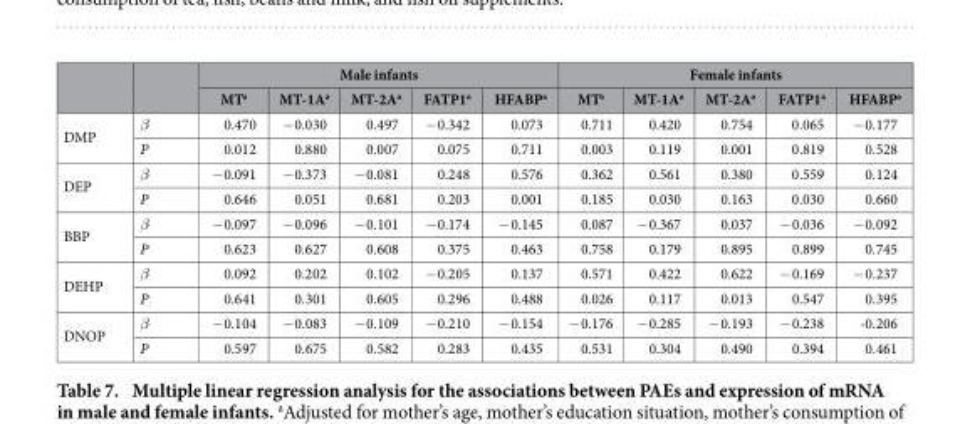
<table><thead><tr><td rowspan="2"></td><td rowspan="2"></td><td colspan="5">Male infants</td><td colspan="5">Female infants</td></tr><tr><td>MT<sup>a</sup></td><td>MT-1A<sup>a</sup></td><td>MT-2A<sup>a</sup></td><td>FATP1<sup>a</sup></td><td>HFABP<sup>a</sup></td><td>MT<sup>a</sup></td><td>MT-1A<sup>a</sup></td><td>MT-2A<sup>a</sup></td><td>FATP1<sup>a</sup></td><td>HFABP<sup>a</sup></td></tr></thead><tbody><tr><td rowspan="2">DMP</td><td>β</td><td>0.470</td><td>− 0.030</td><td>0.497</td><td>− 0.342</td><td>0.073</td><td>0.711</td><td>0.420</td><td>0.754</td><td>0.065</td><td>− 0.177</td></tr><tr><td>P</td><td>0.012</td><td>0.880</td><td>0.007</td><td>0.075</td><td>0.711</td><td>0.003</td><td>0.119</td><td>0.001</td><td>0.819</td><td>0.528</td></tr><tr><td rowspan="2">DEP</td><td>β</td><td>− 0.091</td><td>− 0.373</td><td>− 0.081</td><td>0.248</td><td>0.576</td><td>0.362</td><td>0.561</td><td>0.380</td><td>0.559</td><td>0.124</td></tr><tr><td>P</td><td>0.646</td><td>0.051</td><td>0.681</td><td>0.203</td><td>0.001</td><td>0.185</td><td>0.030</td><td>0.163</td><td>0.030</td><td>0.660</td></tr><tr><td rowspan="2">BBP</td><td>β</td><td>− 0.097</td><td>− 0.096</td><td>− 0.101</td><td>− 0.174</td><td>− 0.145</td><td>0.087</td><td>− 0.367</td><td>0.037</td><td>− 0.036</td><td>− 0.092</td></tr><tr><td>P</td><td>0.623</td><td>0.627</td><td>0.608</td><td>0.375</td><td>0.463</td><td>0.758</td><td>0.179</td><td>0.895</td><td>0.899</td><td>0.745</td></tr><tr><td rowspan="2">DEHP</td><td>β</td><td>0.092</td><td>0.202</td><td>0.102</td><td>− 0.205</td><td>0.137</td><td>0.571</td><td>0.422</td><td>0.622</td><td>− 0.169</td><td>− 0.237</td></tr><tr><td>P</td><td>0.641</td><td>0.301</td><td>0.605</td><td>0.296</td><td>0.488</td><td>0.026</td><td>0.117</td><td>0.013</td><td>0.547</td><td>0.395</td></tr><tr><td rowspan="2">DNOP</td><td>β</td><td>− 0.104</td><td>− 0.083</td><td>− 0.109</td><td>− 0.210</td><td>− 0.154</td><td>− 0.176</td><td>− 0.285</td><td>− 0.193</td><td>− 0.238</td><td>-0.206</td></tr><tr><td>P</td><td>0.597</td><td>0.675</td><td>0.582</td><td>0.283</td><td>0.435</td><td>0.531</td><td>0.304</td><td>0.490</td><td>0.394</td><td>0.461</td></tr></tbody></table>